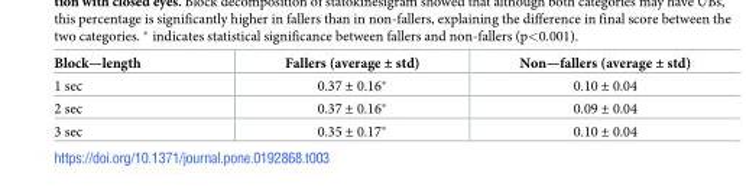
<table><thead><tr><td>Block—length</td><td>Fallers (average ± std)</td><td>Non—fallers (average ± std)</td></tr></thead><tbody><tr><td>1 sec</td><td>0.37 ± 0.16*</td><td>0.10 ± 0.04</td></tr><tr><td>2 sec</td><td>0.37 ± 0.16*</td><td>0.09 ± 0.04</td></tr><tr><td>3 sec</td><td>0.35 ± 0.17*</td><td>0.10 ± 0.04</td></tr></tbody></table>